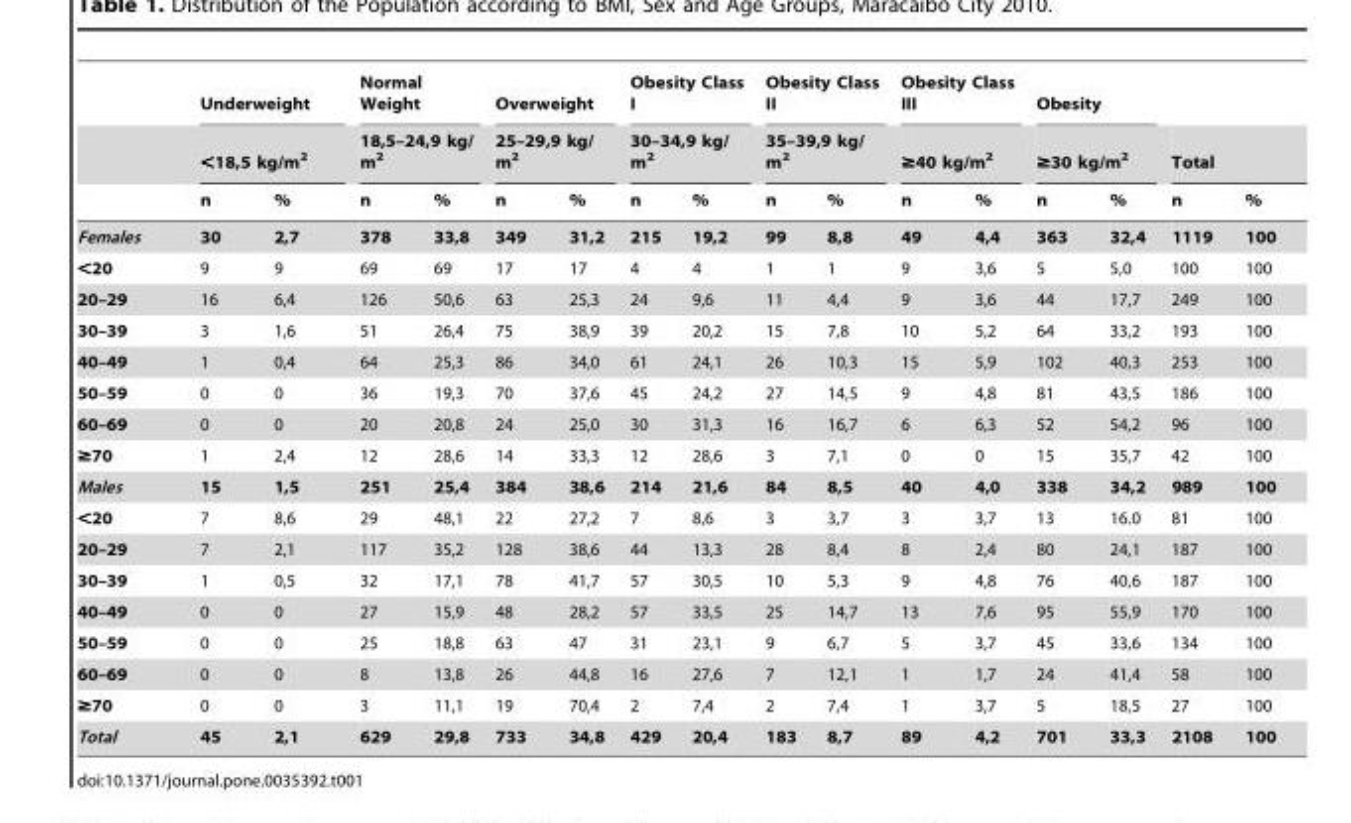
<table><thead><tr><td rowspan="3"></td><td rowspan="2" colspan="2">Underweight &lt;18,5 kg/m<sup>2</sup></td><td rowspan="2" colspan="2">Normal Weight 18,5–24,9 kg/ m<sup>2</sup></td><td rowspan="2" colspan="2">Overweight 25–29,9 kg/ m<sup>2</sup></td><td rowspan="2" colspan="2">Obesity Class I 30–34,9 kg/ m<sup>2</sup></td><td rowspan="2" colspan="2">Obesity Class II 35–39,9 kg/ m<sup>2</sup></td><td rowspan="2" colspan="2">Obesity Class III ≥40 kg/m<sup>2</sup></td><td rowspan="2" colspan="2">Obesity ≥30 kg/m<sup>2</sup></td><td></td><td></td></tr><tr><td colspan="2">Total</td></tr><tr><td>n</td><td>%</td><td>n</td><td>%</td><td>n</td><td>%</td><td>n</td><td>%</td><td>n</td><td>%</td><td>n</td><td>%</td><td>n</td><td>%</td><td>n</td><td>%</td></tr></thead><tbody><tr><td>Females</td><td>30</td><td>2,7</td><td>378</td><td>33,8</td><td>349</td><td>31,2</td><td>215</td><td>19,2</td><td>99</td><td>8,8</td><td>49</td><td>4,4</td><td>363</td><td>32,4</td><td>1119</td><td>100</td></tr><tr><td>&lt;20</td><td>9</td><td>9</td><td>69</td><td>69</td><td>17</td><td>17</td><td>4</td><td>4</td><td>1</td><td>1</td><td>9</td><td>3,6</td><td>5</td><td>5,0</td><td>100</td><td>100</td></tr><tr><td>20–29</td><td>16</td><td>6,4</td><td>126</td><td>50,6</td><td>63</td><td>25,3</td><td>24</td><td>9,6</td><td>11</td><td>4,4</td><td>9</td><td>3,6</td><td>44</td><td>17,7</td><td>249</td><td>100</td></tr><tr><td>30–39</td><td>3</td><td>1,6</td><td>51</td><td>26,4</td><td>75</td><td>38,9</td><td>39</td><td>20,2</td><td>15</td><td>7,8</td><td>10</td><td>5,2</td><td>64</td><td>33,2</td><td>193</td><td>100</td></tr><tr><td>40–49</td><td>1</td><td>0,4</td><td>64</td><td>25,3</td><td>86</td><td>34,0</td><td>61</td><td>24,1</td><td>26</td><td>10,3</td><td>15</td><td>5,9</td><td>102</td><td>40,3</td><td>253</td><td>100</td></tr><tr><td>50–59</td><td>0</td><td>0</td><td>36</td><td>19,3</td><td>70</td><td>37,6</td><td>45</td><td>24,2</td><td>27</td><td>14,5</td><td>9</td><td>4,8</td><td>81</td><td>43,5</td><td>186</td><td>100</td></tr><tr><td>60–69</td><td>0</td><td>0</td><td>20</td><td>20,8</td><td>24</td><td>25,0</td><td>30</td><td>31,3</td><td>16</td><td>16,7</td><td>6</td><td>6,3</td><td>52</td><td>54,2</td><td>96</td><td>100</td></tr><tr><td>≥70</td><td>1</td><td>2,4</td><td>12</td><td>28,6</td><td>14</td><td>33,3</td><td>12</td><td>28,6</td><td>3</td><td>7,1</td><td>0</td><td>0</td><td>15</td><td>35,7</td><td>42</td><td>100</td></tr><tr><td>Males</td><td>15</td><td>1,5</td><td>251</td><td>25,4</td><td>384</td><td>38,6</td><td>214</td><td>21,6</td><td>84</td><td>8,5</td><td>40</td><td>4,0</td><td>338</td><td>34,2</td><td>989</td><td>100</td></tr><tr><td>&lt;20</td><td>7</td><td>8,6</td><td>29</td><td>48,1</td><td>22</td><td>27,2</td><td>7</td><td>8,6</td><td>3</td><td>3,7</td><td>3</td><td>3,7</td><td>13</td><td>16.0</td><td>81</td><td>100</td></tr><tr><td>20–29</td><td>7</td><td>2,1</td><td>117</td><td>35,2</td><td>128</td><td>38,6</td><td>44</td><td>13,3</td><td>28</td><td>8,4</td><td>8</td><td>2,4</td><td>80</td><td>24,1</td><td>187</td><td>100</td></tr><tr><td>30–39</td><td>1</td><td>0,5</td><td>32</td><td>17,1</td><td>78</td><td>41,7</td><td>57</td><td>30,5</td><td>10</td><td>5,3</td><td>9</td><td>4,8</td><td>76</td><td>40,6</td><td>187</td><td>100</td></tr><tr><td>40–49</td><td>0</td><td>0</td><td>27</td><td>15,9</td><td>48</td><td>28,2</td><td>57</td><td>33,5</td><td>25</td><td>14,7</td><td>13</td><td>7,6</td><td>95</td><td>55,9</td><td>170</td><td>100</td></tr><tr><td>50–59</td><td>0</td><td>0</td><td>25</td><td>18,8</td><td>63</td><td>47</td><td>31</td><td>23,1</td><td>9</td><td>6,7</td><td>5</td><td>3,7</td><td>45</td><td>33,6</td><td>134</td><td>100</td></tr><tr><td>60–69</td><td>0</td><td>0</td><td>8</td><td>13,8</td><td>26</td><td>44,8</td><td>16</td><td>27,6</td><td>7</td><td>12,1</td><td>1</td><td>1,7</td><td>24</td><td>41,4</td><td>58</td><td>100</td></tr><tr><td>≥70</td><td>0</td><td>0</td><td>3</td><td>11,1</td><td>19</td><td>70,4</td><td>2</td><td>7,4</td><td>2</td><td>7,4</td><td>1</td><td>3,7</td><td>5</td><td>18,5</td><td>27</td><td>100</td></tr><tr><td>Total</td><td>45</td><td>2,1</td><td>629</td><td>29,8</td><td>733</td><td>34,8</td><td>429</td><td>20,4</td><td>183</td><td>8,7</td><td>89</td><td>4,2</td><td>701</td><td>33,3</td><td>2108</td><td>100</td></tr></tbody></table>